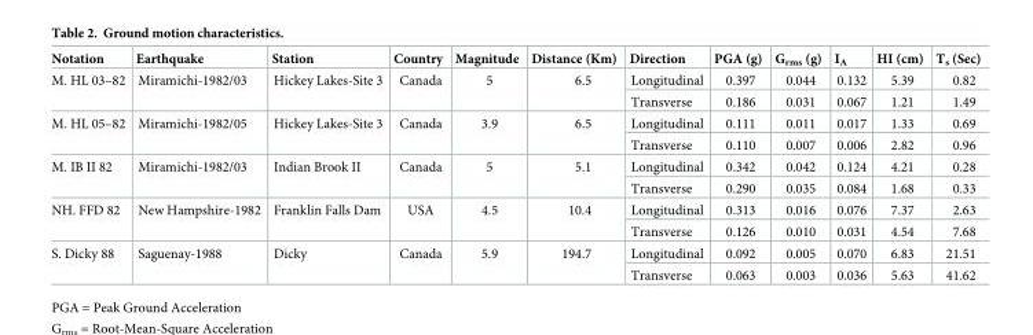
<table><thead><tr><td>Notation</td><td>Earthquake</td><td>Station</td><td>Country</td><td>Magnitude</td><td>Distance (Km)</td><td>Direction</td><td>PGA (g)</td><td>G<sub>rms</sub> (g)</td><td>I<sub>A</sub></td><td>HI (cm)</td><td>T<sub>s</sub> (Sec)</td></tr></thead><tbody><tr><td rowspan="2">M. HL 03–82</td><td rowspan="2">Miramichi-1982/03</td><td rowspan="2">Hickey Lakes-Site 3</td><td rowspan="2">Canada</td><td rowspan="2">5</td><td rowspan="2">6.5</td><td>Longitudinal</td><td>0.397</td><td>0.044</td><td>0.132</td><td>5.39</td><td>0.82</td></tr><tr><td>Transverse</td><td>0.186</td><td>0.031</td><td>0.067</td><td>1.21</td><td>1.49</td></tr><tr><td rowspan="2">M. HL 05–82</td><td rowspan="2">Miramichi-1982/05</td><td rowspan="2">Hickey Lakes-Site 3</td><td rowspan="2">Canada</td><td rowspan="2">3.9</td><td rowspan="2">6.5</td><td>Longitudinal</td><td>0.111</td><td>0.011</td><td>0.017</td><td>1.33</td><td>0.69</td></tr><tr><td>Transverse</td><td>0.110</td><td>0.007</td><td>0.006</td><td>2.82</td><td>0.96</td></tr><tr><td rowspan="2">M. IB II 82</td><td rowspan="2">Miramichi-1982/03</td><td rowspan="2">Indian Brook II</td><td rowspan="2">Canada</td><td rowspan="2">5</td><td rowspan="2">5.1</td><td>Longitudinal</td><td>0.342</td><td>0.042</td><td>0.124</td><td>4.21</td><td>0.28</td></tr><tr><td>Transverse</td><td>0.290</td><td>0.035</td><td>0.084</td><td>1.68</td><td>0.33</td></tr><tr><td rowspan="2">NH. FFD 82</td><td rowspan="2">New Hampshire-1982</td><td rowspan="2">Franklin Falls Dam</td><td rowspan="2">USA</td><td rowspan="2">4.5</td><td rowspan="2">10.4</td><td>Longitudinal</td><td>0.313</td><td>0.016</td><td>0.076</td><td>7.37</td><td>2.63</td></tr><tr><td>Transverse</td><td>0.126</td><td>0.010</td><td>0.031</td><td>4.54</td><td>7.68</td></tr><tr><td rowspan="2">S. Dicky 88</td><td rowspan="2">Saguenay-1988</td><td rowspan="2">Dicky</td><td rowspan="2">Canada</td><td rowspan="2">5.9</td><td rowspan="2">194.7</td><td>Longitudinal</td><td>0.092</td><td>0.005</td><td>0.070</td><td>6.83</td><td>21.51</td></tr><tr><td>Transverse</td><td>0.063</td><td>0.003</td><td>0.036</td><td>5.63</td><td>41.62</td></tr></tbody></table>